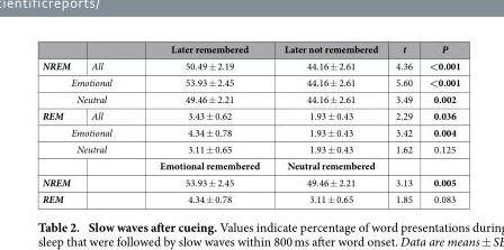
<table><thead><tr><td></td><td></td><td>Later remembered</td><td>Later not remembered</td><td>t</td><td>P</td></tr></thead><tbody><tr><td>NREM</td><td>All</td><td>50.49 ± 2.19</td><td>44.16 ± 2.61</td><td>4.36</td><td>&lt;0.001</td></tr><tr><td colspan="2">Emotional</td><td>53.93 ± 2.45</td><td>44.16 ± 2.61</td><td>5.60</td><td>&lt;0.001</td></tr><tr><td colspan="2">Neutral</td><td>49.46 ± 2.21</td><td>44.16 ± 2.61</td><td>3.49</td><td>0.002</td></tr><tr><td>REM</td><td>All</td><td>3.43 ± 0.62</td><td>1.93 ± 0.43</td><td>2.29</td><td>0.036</td></tr><tr><td colspan="2">Emotional</td><td>4.34 ± 0.78</td><td>1.93 ± 0.43</td><td>3.42</td><td>0.004</td></tr><tr><td colspan="2">Neutral</td><td>3.11 ± 0.65</td><td>1.93 ± 0.43</td><td>1.62</td><td>0.125</td></tr><tr><td></td><td></td><td>Emotional remembered</td><td>Neutral remembered</td><td></td><td></td></tr><tr><td>NREM</td><td></td><td>53.93 ± 2.45</td><td>49.46 ± 2.21</td><td>3.13</td><td>0.005</td></tr><tr><td>REM</td><td></td><td>4.34 ± 0.78</td><td>3.11 ± 0.65</td><td>1.85</td><td>0.083</td></tr></tbody></table>